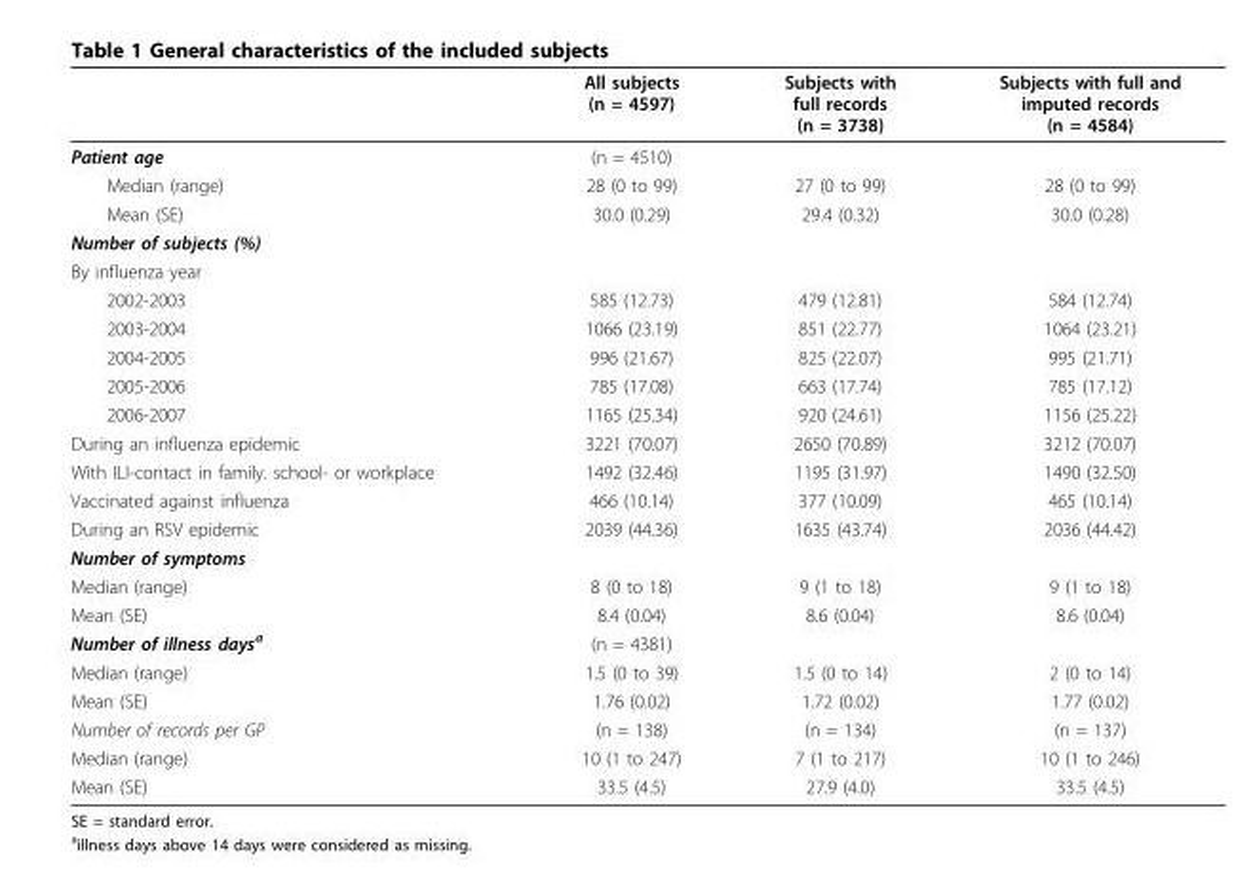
<table><thead><tr><td></td><td>All subjects (n = 4597)</td><td>Subjects with full records (n = 3738)</td><td>Subjects with full and imputed records (n = 4584)</td></tr></thead><tbody><tr><td>Patient age</td><td>(n = 4510)</td><td></td><td></td></tr><tr><td>Median (range)</td><td>28 (0 to 99)</td><td>27 (0 to 99)</td><td>28 (0 to 99)</td></tr><tr><td>Mean (SE)</td><td>30.0 (0.29)</td><td>29.4 (0.32)</td><td>30.0 (0.28)</td></tr><tr><td colspan="4">Number of subjects (%)</td></tr><tr><td colspan="4">By influenza year</td></tr><tr><td>2002-2003</td><td>585 (12.73)</td><td>479 (12.81)</td><td>584 (12.74)</td></tr><tr><td>2003-2004</td><td>1066 (23.19)</td><td>851 (22.77)</td><td>1064 (23.21)</td></tr><tr><td>2004-2005</td><td>996 (21.67)</td><td>825 (22.07)</td><td>995 (21.71)</td></tr><tr><td>2005-2006</td><td>785 (17.08)</td><td>663 (17.74)</td><td>785 (17.12)</td></tr><tr><td>2006-2007</td><td>1165 (25.34)</td><td>920 (24.61)</td><td>1156 (25.22)</td></tr><tr><td>During an influenza epidemic</td><td>3221 (70.07)</td><td>2650 (70.89)</td><td>3212 (70.07)</td></tr><tr><td>With ILI-contact in family. school- or workplace</td><td>1492 (32.46)</td><td>1195 (31.97)</td><td>1490 (32.50)</td></tr><tr><td>Vaccinated against influenza</td><td>466 (10.14)</td><td>377 (10.09)</td><td>465 (10.14)</td></tr><tr><td>During an RSV epidemic</td><td>2039 (44.36)</td><td>1635 (43.74)</td><td>2036 (44.42)</td></tr><tr><td colspan="4">Number of symptoms</td></tr><tr><td>Median (range)</td><td>8 (0 to 18)</td><td>9 (1 to 18)</td><td>9 (1 to 18)</td></tr><tr><td>Mean (SE)</td><td>8.4 (0.04)</td><td>8.6 (0.04)</td><td>8.6 (0.04)</td></tr><tr><td>Number of illness days<sup>a</sup></td><td>(n = 4381)</td><td></td><td></td></tr><tr><td>Median (range)</td><td>1.5 (0 to 39)</td><td>1.5 (0 to 14)</td><td>2 (0 to 14)</td></tr><tr><td>Mean (SE)</td><td>1.76 (0.02)</td><td>1.72 (0.02)</td><td>1.77 (0.02)</td></tr><tr><td>Number of records per GP</td><td>(n = 138)</td><td>(n = 134)</td><td>(n = 137)</td></tr><tr><td>Median (range)</td><td>10 (1 to 247)</td><td>7 (1 to 217)</td><td>10 (1 to 246)</td></tr><tr><td>Mean (SE)</td><td>33.5 (4.5)</td><td>27.9 (4.0)</td><td>33.5 (4.5)</td></tr></tbody></table>